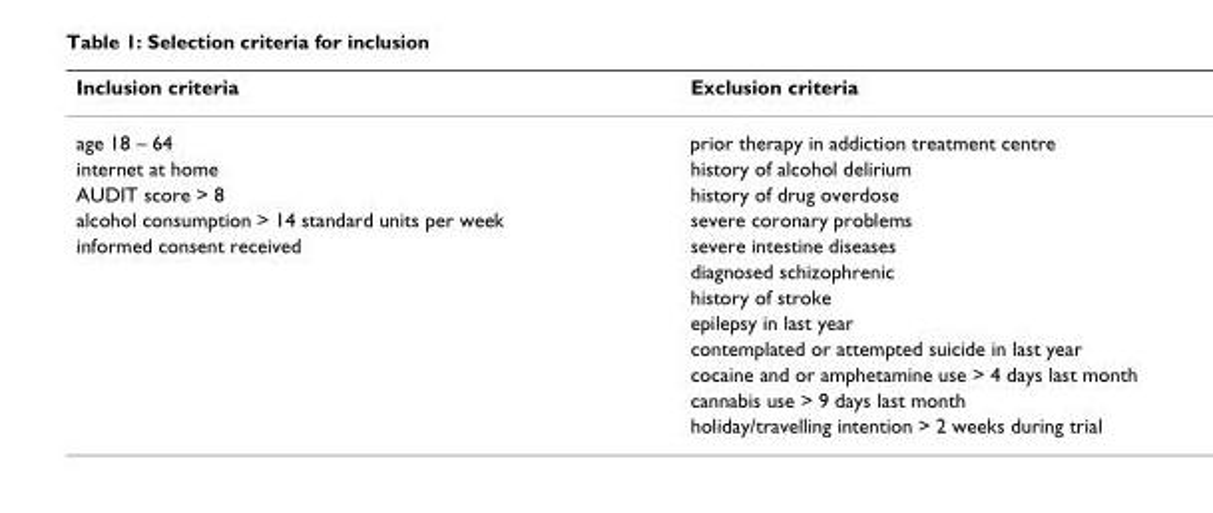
<table><thead><tr><td>Inclusion criteria</td><td>Exclusion criteria</td></tr></thead><tbody><tr><td>age 18 – 64</td><td>prior therapy in addiction treatment centre</td></tr><tr><td>internet at home</td><td>history of alcohol delirium</td></tr><tr><td>AUDIT score &gt; 8</td><td>history of drug overdose</td></tr><tr><td>alcohol consumption &gt; 14 standard units per week</td><td>severe coronary problems</td></tr><tr><td rowspan="8">informed consent received</td><td>severe intestine diseases</td></tr><tr><td>diagnosed schizophrenic</td></tr><tr><td>history of stroke</td></tr><tr><td>epilepsy in last year</td></tr><tr><td>contemplated or attempted suicide in last year</td></tr><tr><td>cocaine and or amphetamine use &gt; 4 days last month</td></tr><tr><td>cannabis use &gt; 9 days last month</td></tr><tr><td>holiday/travelling intention &gt; 2 weeks during trial</td></tr></tbody></table>